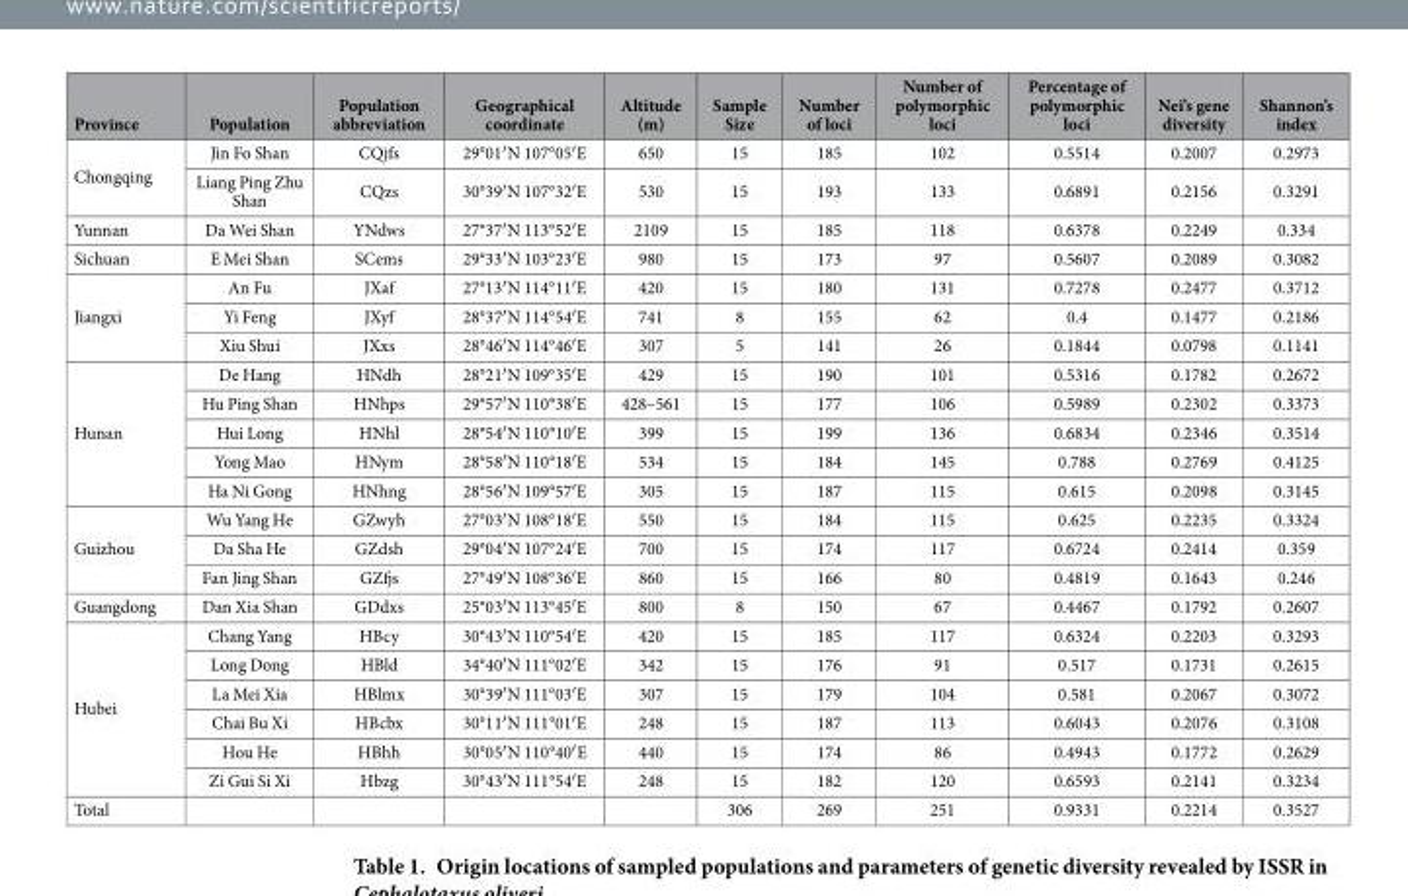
<table><thead><tr><td>Province</td><td>Population</td><td>Population abbreviation</td><td>Geographical coordinate</td><td>Altitude (m)</td><td>Sample Size</td><td>Number of loci</td><td>Number of polymorphic loci</td><td>Percentage of polymorphic loci</td><td>Nei’s gene diversity</td><td>Shannon’s index</td></tr></thead><tbody><tr><td rowspan="2">Chongqing</td><td>Jin Fo Shan</td><td>CQjfs</td><td>29°01′ N 107°05′ E</td><td>650</td><td>15</td><td>185</td><td>102</td><td>0.5514</td><td>0.2007</td><td>0.2973</td></tr><tr><td>Liang Ping Zhu Shan</td><td>CQzs</td><td>30°39′ N 107°32′ E</td><td>530</td><td>15</td><td>193</td><td>133</td><td>0.6891</td><td>0.2156</td><td>0.3291</td></tr><tr><td>Yunnan</td><td>Da Wei Shan</td><td>YNdws</td><td>27°37′ N 113°52′ E</td><td>2109</td><td>15</td><td>185</td><td>118</td><td>0.6378</td><td>0.2249</td><td>0.334</td></tr><tr><td>Sichuan</td><td>E Mei Shan</td><td>SCems</td><td>29°33′ N 103°23′ E</td><td>980</td><td>15</td><td>173</td><td>97</td><td>0.5607</td><td>0.2089</td><td>0.3082</td></tr><tr><td rowspan="3">Jiangxi</td><td>An Fu</td><td>JXaf</td><td>27°13′ N 114°11′ E</td><td>420</td><td>15</td><td>180</td><td>131</td><td>0.7278</td><td>0.2477</td><td>0.3712</td></tr><tr><td>Yi Feng</td><td>JXyf</td><td>28°37′ N 114°54′ E</td><td>741</td><td>8</td><td>155</td><td>62</td><td>0.4</td><td>0.1477</td><td>0.2186</td></tr><tr><td>Xiu Shui</td><td>JXxs</td><td>28°46′ N 114°46′ E</td><td>307</td><td>5</td><td>141</td><td>26</td><td>0.1844</td><td>0.0798</td><td>0.1141</td></tr><tr><td rowspan="5">Hunan</td><td>De Hang</td><td>HNdh</td><td>28°21′ N 109°35′ E</td><td>429</td><td>15</td><td>190</td><td>101</td><td>0.5316</td><td>0.1782</td><td>0.2672</td></tr><tr><td>Hu Ping Shan</td><td>HNhps</td><td>29°57′ N 110°38′ E</td><td>428–561</td><td>15</td><td>177</td><td>106</td><td>0.5989</td><td>0.2302</td><td>0.3373</td></tr><tr><td>Hui Long</td><td>HNhl</td><td>28°54′ N 110°10′ E</td><td>399</td><td>15</td><td>199</td><td>136</td><td>0.6834</td><td>0.2346</td><td>0.3514</td></tr><tr><td>Yong Mao</td><td>HNym</td><td>28°58′ N 110°18′ E</td><td>534</td><td>15</td><td>184</td><td>145</td><td>0.788</td><td>0.2769</td><td>0.4125</td></tr><tr><td>Ha Ni Gong</td><td>HNhng</td><td>28°56′ N 109°57′ E</td><td>305</td><td>15</td><td>187</td><td>115</td><td>0.615</td><td>0.2098</td><td>0.3145</td></tr><tr><td rowspan="3">Guizhou</td><td>Wu Yang He</td><td>GZwyh</td><td>27°03′ N 108°18′ E</td><td>550</td><td>15</td><td>184</td><td>115</td><td>0.625</td><td>0.2235</td><td>0.3324</td></tr><tr><td>Da Sha He</td><td>GZdsh</td><td>29°04′ N 107°24′ E</td><td>700</td><td>15</td><td>174</td><td>117</td><td>0.6724</td><td>0.2414</td><td>0.359</td></tr><tr><td>Fan Jing Shan</td><td>GZfjs</td><td>27°49′ N 108°36′ E</td><td>860</td><td>15</td><td>166</td><td>80</td><td>0.4819</td><td>0.1643</td><td>0.246</td></tr><tr><td>Guangdong</td><td>Dan Xia Shan</td><td>GDdxs</td><td>25°03′ N 113°45′ E</td><td>800</td><td>8</td><td>150</td><td>67</td><td>0.4467</td><td>0.1792</td><td>0.2607</td></tr><tr><td rowspan="6">Hubei</td><td>Chang Yang</td><td>HBcy</td><td>30°43′ N 110°54′ E</td><td>420</td><td>15</td><td>185</td><td>117</td><td>0.6324</td><td>0.2203</td><td>0.3293</td></tr><tr><td>Long Dong</td><td>HBld</td><td>34°40′ N 111°02′ E</td><td>342</td><td>15</td><td>176</td><td>91</td><td>0.517</td><td>0.1731</td><td>0.2615</td></tr><tr><td>La Mei Xia</td><td>HBlmx</td><td>30°39′ N 111°03′ E</td><td>307</td><td>15</td><td>179</td><td>104</td><td>0.581</td><td>0.2067</td><td>0.3072</td></tr><tr><td>Chai Bu Xi</td><td>HBcbx</td><td>30°11′ N 111°01′ E</td><td>248</td><td>15</td><td>187</td><td>113</td><td>0.6043</td><td>0.2076</td><td>0.3108</td></tr><tr><td>Hou He</td><td>HBhh</td><td>30°05′ N 110°40′ E</td><td>440</td><td>15</td><td>174</td><td>86</td><td>0.4943</td><td>0.1772</td><td>0.2629</td></tr><tr><td>Zi Gui Si Xi</td><td>Hbzg</td><td>30°43′ N 111°54′ E</td><td>248</td><td>15</td><td>182</td><td>120</td><td>0.6593</td><td>0.2141</td><td>0.3234</td></tr><tr><td>Total</td><td></td><td></td><td></td><td></td><td>306</td><td>269</td><td>251</td><td>0.9331</td><td>0.2214</td><td>0.3527</td></tr></tbody></table>